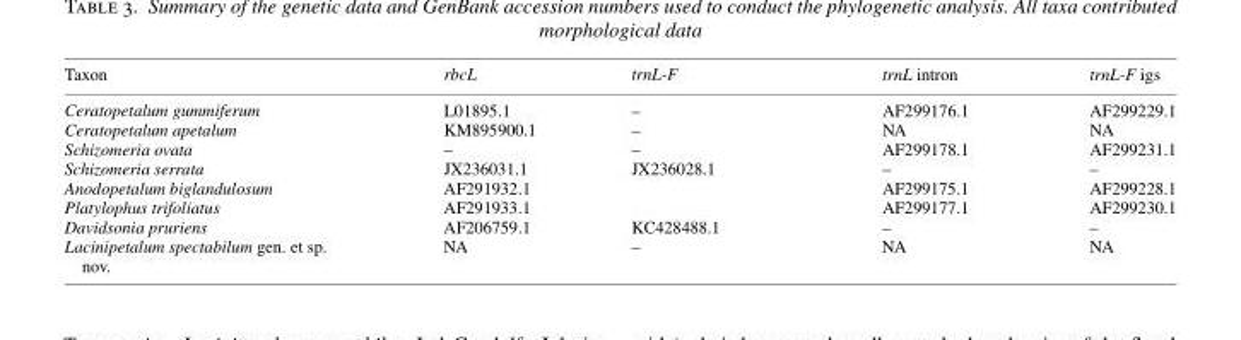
<table><thead><tr><td>Taxon</td><td>rbcL</td><td>trnL-F</td><td>trnL intron</td><td>trnL-F igs</td></tr></thead><tbody><tr><td>Ceratopetalum gummiferum</td><td>L01895.1</td><td>–</td><td>AF299176.1</td><td>AF299229.1</td></tr><tr><td>Ceratopetalum apetalum</td><td>KM895900.1</td><td>–</td><td>NA</td><td>NA</td></tr><tr><td>Schizomeria ovata</td><td>–</td><td>–</td><td>AF299178.1</td><td>AF299231.1</td></tr><tr><td>Schizomeria serrata</td><td>JX236031.1</td><td>JX236028.1</td><td>–</td><td>–</td></tr><tr><td>Anodopetalum biglandulosum</td><td>AF291932.1</td><td></td><td>AF299175.1</td><td>AF299228.1</td></tr><tr><td>Platylophus trifoliatus</td><td>AF291933.1</td><td></td><td>AF299177.1</td><td>AF299230.1</td></tr><tr><td>Davidsonia pruriens</td><td>AF206759.1</td><td>KC428488.1</td><td>–</td><td>–</td></tr><tr><td>Lacinipetalum spectabilum gen. et sp. nov.</td><td>NA</td><td>–</td><td>NA</td><td>NA</td></tr></tbody></table>